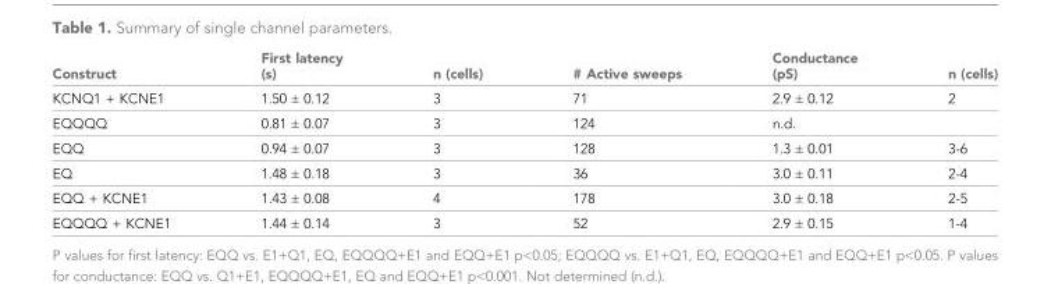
<table><thead><tr><td>Construct</td><td>First latency (s)</td><td>n (cells)</td><td># Active sweeps</td><td>Conductance (pS)</td><td>n (cells)</td></tr></thead><tbody><tr><td>KCNQ1 + KCNE1</td><td>1.50 ± 0.12</td><td>3</td><td>71</td><td>2.9 ± 0.12</td><td>2</td></tr><tr><td>EQQQQ</td><td>0.81 ± 0.07</td><td>3</td><td>124</td><td>n.d.</td><td></td></tr><tr><td>EQQ</td><td>0.94 ± 0.07</td><td>3</td><td>128</td><td>1.3 ± 0.01</td><td>3-6</td></tr><tr><td>EQ</td><td>1.48 ± 0.18</td><td>3</td><td>36</td><td>3.0 ± 0.11</td><td>2-4</td></tr><tr><td>EQQ + KCNE1</td><td>1.43 ± 0.08</td><td>4</td><td>178</td><td>3.0 ± 0.18</td><td>2-5</td></tr><tr><td>EQQQQ + KCNE1</td><td>1.44 ± 0.14</td><td>3</td><td>52</td><td>2.9 ± 0.15</td><td>1-4</td></tr></tbody></table>